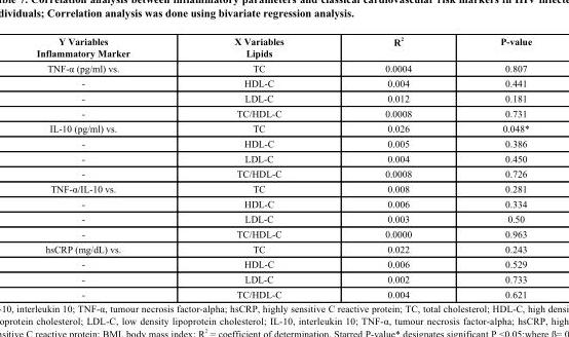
<table><thead><tr><td>Y Variables Inflammatory Marker</td><td>X Variables Lipids</td><td>R <sup>2</sup></td><td>P-value</td></tr></thead><tbody><tr><td>TNF-α (pg/ml) vs.</td><td>TC</td><td>0.0004</td><td>0.807</td></tr><tr><td>-</td><td>HDL-C</td><td>0.004</td><td>0.441</td></tr><tr><td>-</td><td>LDL-C</td><td>0.012</td><td>0.181</td></tr><tr><td>-</td><td>TC/HDL-C</td><td>0.0008</td><td>0.731</td></tr><tr><td>IL-10 (pg/ml) vs.</td><td>TC</td><td>0.026</td><td>0.048*</td></tr><tr><td>-</td><td>HDL-C</td><td>0.005</td><td>0.386</td></tr><tr><td>-</td><td>LDL-C</td><td>0.004</td><td>0.450</td></tr><tr><td>-</td><td>TC/HDL-C</td><td>0.0008</td><td>0.726</td></tr><tr><td>TNF-α/IL-10 vs.</td><td>TC</td><td>0.008</td><td>0.281</td></tr><tr><td>-</td><td>HDL-C</td><td>0.006</td><td>0.334</td></tr><tr><td>-</td><td>LDL-C</td><td>0.003</td><td>0.50</td></tr><tr><td>-</td><td>TC/HDL-C</td><td>0.0000</td><td>0.963</td></tr><tr><td>hsCRP (mg/dL) vs.</td><td>TC</td><td>0.022</td><td>0.243</td></tr><tr><td>-</td><td>HDL-C</td><td>0.006</td><td>0.529</td></tr><tr><td>-</td><td>LDL-C</td><td>0.002</td><td>0.733</td></tr><tr><td>-</td><td>TC/HDL-C</td><td>0.004</td><td>0.621</td></tr></tbody></table>